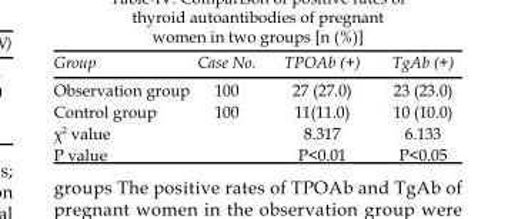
<table><thead><tr><td>Group</td><td>Case No.</td><td>TPOAb (+)</td><td>TgAb (+)</td></tr></thead><tbody><tr><td>Observation group</td><td>100</td><td>27 (27.0)</td><td>23 (23.0)</td></tr><tr><td>Control group</td><td>100</td><td>11(11.0)</td><td>10 (10.0)</td></tr><tr><td>χ2 value</td><td></td><td>8.317</td><td>6.133</td></tr><tr><td>P value</td><td></td><td>P&lt;0.01</td><td>P&lt;0.05</td></tr></tbody></table>